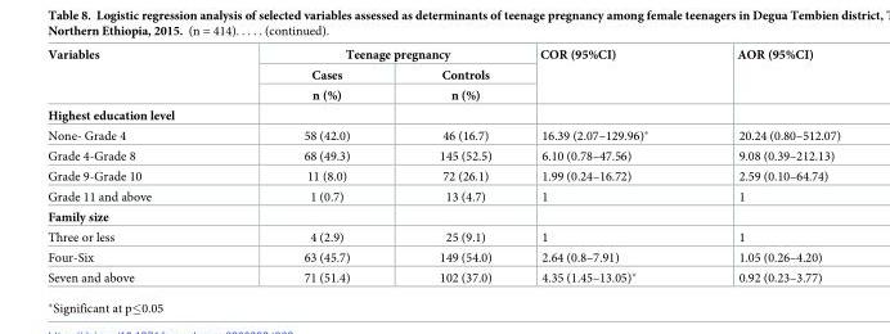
<table><thead><tr><td rowspan="3">Variables</td><td colspan="2">Teenage pregnancy</td><td rowspan="3">COR (95%CI)</td><td rowspan="3">AOR (95%CI)</td></tr><tr><td rowspan="2">Cases n (%)</td><td rowspan="2">Controls n (%)</td></tr><tr></tr></thead><tbody><tr><td colspan="5">Highest education level</td></tr><tr><td>None- Grade 4</td><td>58 (42.0)</td><td>46 (16.7)</td><td>16.39 (2.07–129.96)*</td><td>20.24 (0.80–512.07)</td></tr><tr><td>Grade 4-Grade 8</td><td>68 (49.3)</td><td>145 (52.5)</td><td>6.10 (0.78–47.56)</td><td>9.08 (0.39–212.13)</td></tr><tr><td>Grade 9-Grade 10</td><td>11 (8.0)</td><td>72 (26.1)</td><td>1.99 (0.24–16.72)</td><td>2.59 (0.10–64.74)</td></tr><tr><td>Grade 11 and above</td><td>1 (0.7)</td><td>13 (4.7)</td><td>1</td><td>1</td></tr><tr><td colspan="5">Family size</td></tr><tr><td>Three or less</td><td>4 (2.9)</td><td>25 (9.1)</td><td>1</td><td>1</td></tr><tr><td>Four-Six</td><td>63 (45.7)</td><td>149 (54.0)</td><td>2.64 (0.8–7.91)</td><td>1.05 (0.26–4.20)</td></tr><tr><td>Seven and above</td><td>71 (51.4)</td><td>102 (37.0)</td><td>4.35 (1.45–13.05)*</td><td>0.92 (0.23–3.77)</td></tr></tbody></table>